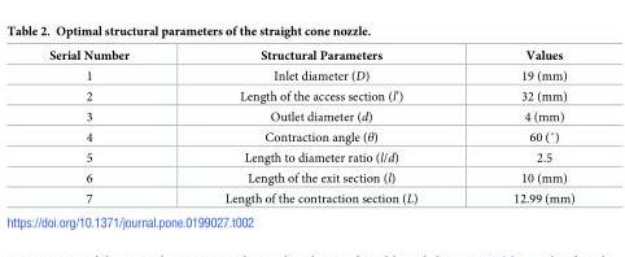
<table><thead><tr><td>Serial Number</td><td>Structural Parameters</td><td>Values</td></tr></thead><tbody><tr><td>1</td><td>Inlet diameter (D)</td><td>19 (mm)</td></tr><tr><td>2</td><td>Length of the access section (l’)</td><td>32 (mm)</td></tr><tr><td>3</td><td>Outlet diameter (d)</td><td>4 (mm)</td></tr><tr><td>4</td><td>Contraction angle (θ)</td><td>60 (˚)</td></tr><tr><td>5</td><td>Length to diameter ratio (l/d)</td><td>2.5</td></tr><tr><td>6</td><td>Length of the exit section (l)</td><td>10 (mm)</td></tr><tr><td>7</td><td>Length of the contraction section (L)</td><td>12.99 (mm)</td></tr></tbody></table>